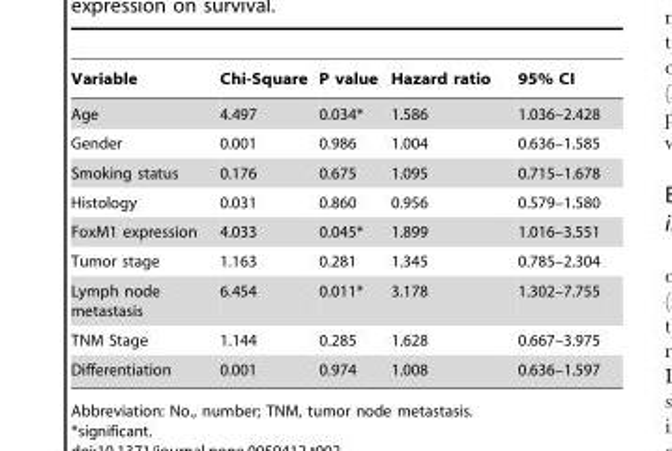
<table><thead><tr><td>Variable</td><td>Chi-Square</td><td>P value</td><td>Hazard ratio</td><td>95% CI</td></tr></thead><tbody><tr><td>Age</td><td>4.497</td><td>0.034*</td><td>1.586</td><td>1.036–2.428</td></tr><tr><td>Gender</td><td>0.001</td><td>0.986</td><td>1.004</td><td>0.636–1.585</td></tr><tr><td>Smoking status</td><td>0.176</td><td>0.675</td><td>1.095</td><td>0.715–1.678</td></tr><tr><td>Histology</td><td>0.031</td><td>0.860</td><td>0.956</td><td>0.579–1.580</td></tr><tr><td>FoxM1 expression</td><td>4.033</td><td>0.045*</td><td>1.899</td><td>1.016–3.551</td></tr><tr><td>Tumor stage</td><td>1.163</td><td>0.281</td><td>1.345</td><td>0.785–2.304</td></tr><tr><td>Lymph node metastasis</td><td>6.454</td><td>0.011*</td><td>3.178</td><td>1.302–7.755</td></tr><tr><td>TNM Stage</td><td>1.144</td><td>0.285</td><td>1.628</td><td>0.667–3.975</td></tr><tr><td>Differentiation</td><td>0.001</td><td>0.974</td><td>1.008</td><td>0.636–1.597</td></tr></tbody></table>